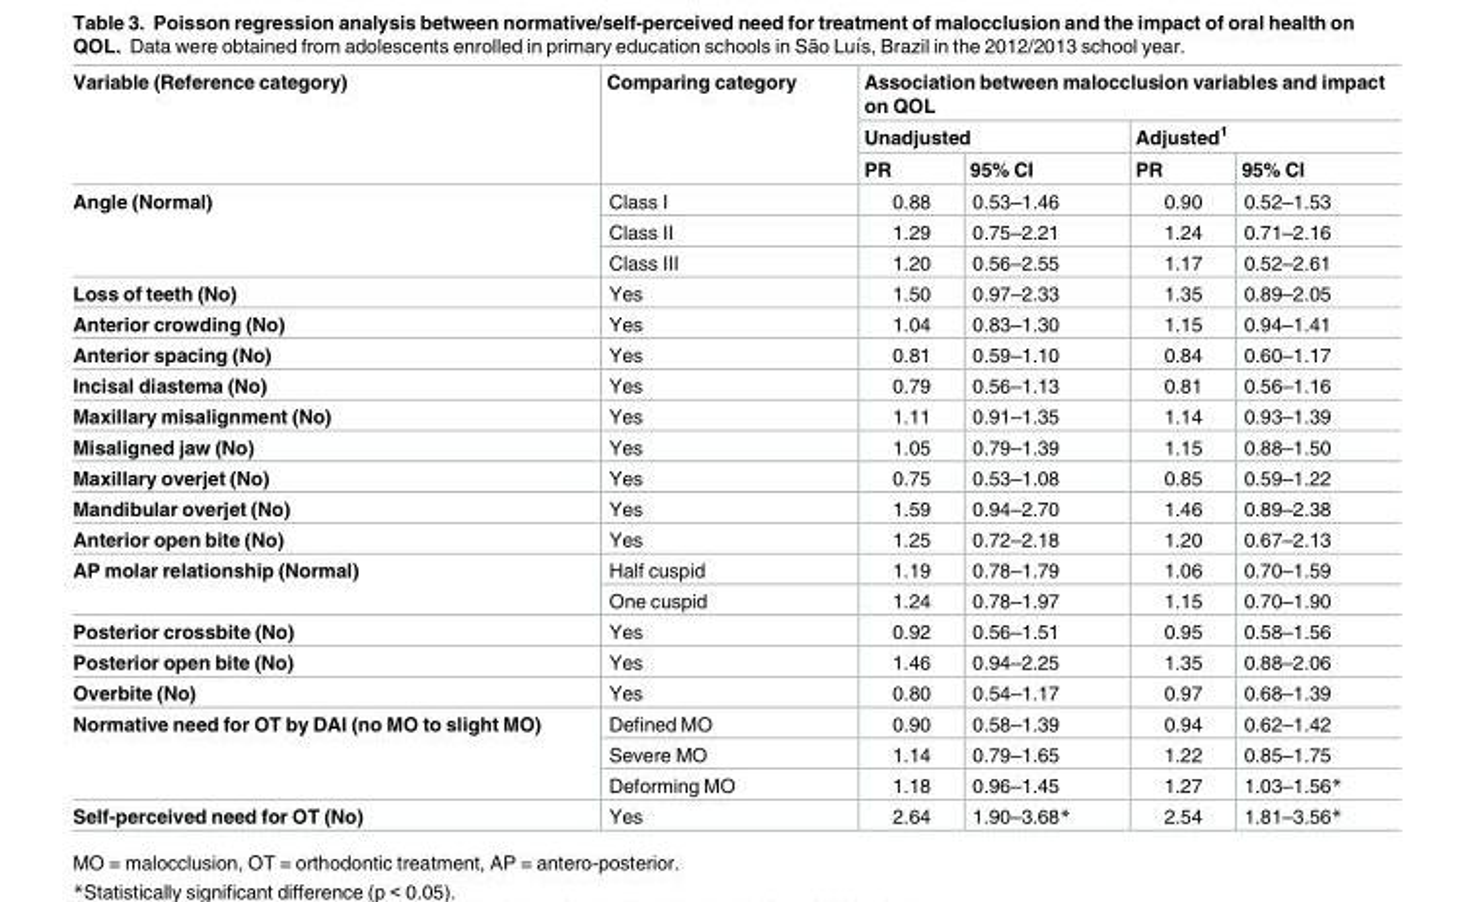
<table><thead><tr><td rowspan="3">Variable (Reference category)</td><td rowspan="3">Comparing category</td><td colspan="4">Association between malocclusion variables and impact on QOL</td></tr><tr><td colspan="2">Unadjusted</td><td colspan="2">Adjusted<sup>1</sup></td></tr><tr><td>PR</td><td>95% CI</td><td>PR</td><td>95% CI</td></tr></thead><tbody><tr><td rowspan="3">Angle (Normal)</td><td>Class I</td><td>0.88</td><td>0.53–1.46</td><td>0.90</td><td>0.52–1.53</td></tr><tr><td>Class II</td><td>1.29</td><td>0.75–2.21</td><td>1.24</td><td>0.71–2.16</td></tr><tr><td>Class III</td><td>1.20</td><td>0.56–2.55</td><td>1.17</td><td>0.52–2.61</td></tr><tr><td>Loss of teeth (No)</td><td>Yes</td><td>1.50</td><td>0.97–2.33</td><td>1.35</td><td>0.89–2.05</td></tr><tr><td>Anterior crowding (No)</td><td>Yes</td><td>1.04</td><td>0.83–1.30</td><td>1.15</td><td>0.94–1.41</td></tr><tr><td>Anterior spacing (No)</td><td>Yes</td><td>0.81</td><td>0.59–1.10</td><td>0.84</td><td>0.60–1.17</td></tr><tr><td>Incisal diastema (No)</td><td>Yes</td><td>0.79</td><td>0.56–1.13</td><td>0.81</td><td>0.56–1.16</td></tr><tr><td>Maxillary misalignment (No)</td><td>Yes</td><td>1.11</td><td>0.91–1.35</td><td>1.14</td><td>0.93–1.39</td></tr><tr><td>Misaligned jaw (No)</td><td>Yes</td><td>1.05</td><td>0.79–1.39</td><td>1.15</td><td>0.88–1.50</td></tr><tr><td>Maxillary overjet (No)</td><td>Yes</td><td>0.75</td><td>0.53–1.08</td><td>0.85</td><td>0.59–1.22</td></tr><tr><td>Mandibular overjet (No)</td><td>Yes</td><td>1.59</td><td>0.94–2.70</td><td>1.46</td><td>0.89–2.38</td></tr><tr><td>Anterior open bite (No)</td><td>Yes</td><td>1.25</td><td>0.72–2.18</td><td>1.20</td><td>0.67–2.13</td></tr><tr><td rowspan="2">AP molar relationship (Normal)</td><td>Half cuspid</td><td>1.19</td><td>0.78–1.79</td><td>1.06</td><td>0.70–1.59</td></tr><tr><td>One cuspid</td><td>1.24</td><td>0.78–1.97</td><td>1.15</td><td>0.70–1.90</td></tr><tr><td>Posterior crossbite (No)</td><td>Yes</td><td>0.92</td><td>0.56–1.51</td><td>0.95</td><td>0.58–1.56</td></tr><tr><td>Posterior open bite (No)</td><td>Yes</td><td>1.46</td><td>0.94–2.25</td><td>1.35</td><td>0.88–2.06</td></tr><tr><td>Overbite (No)</td><td>Yes</td><td>0.80</td><td>0.54–1.17</td><td>0.97</td><td>0.68–1.39</td></tr><tr><td rowspan="3">Normative need for OT by DAI (no MO to slight MO)</td><td>Defined MO</td><td>0.90</td><td>0.58–1.39</td><td>0.94</td><td>0.62–1.42</td></tr><tr><td>Severe MO</td><td>1.14</td><td>0.79–1.65</td><td>1.22</td><td>0.85–1.75</td></tr><tr><td>Deforming MO</td><td>1.18</td><td>0.96–1.45</td><td>1.27</td><td>1.03–1.56*</td></tr><tr><td>Self-perceived need for OT (No)</td><td>Yes</td><td>2.64</td><td>1.90–3.68*</td><td>2.54</td><td>1.81–3.56*</td></tr></tbody></table>